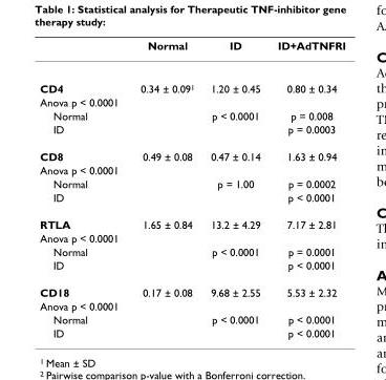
<table><thead><tr><td></td><td>Normal</td><td>ID</td><td>ID+AdTNFRI</td></tr></thead><tbody><tr><td>CD4</td><td>0.34 ± 0.09<sup>1</sup></td><td>1.20 ± 0.45</td><td>0.80 ± 0.34</td></tr><tr><td colspan="4">Anova p &lt; 0.0001</td></tr><tr><td>Normal</td><td></td><td>p &lt; 0.0001</td><td>p = 0.008</td></tr><tr><td>ID</td><td></td><td></td><td>p = 0.0003</td></tr><tr><td>CD8</td><td>0.49 ± 0.08</td><td>0.47 ± 0.14</td><td>1.63 ± 0.94</td></tr><tr><td colspan="4">Anova p &lt; 0.0001</td></tr><tr><td>Normal</td><td></td><td>p = 1.00</td><td>p = 0.0002</td></tr><tr><td>ID</td><td></td><td></td><td>p &lt; 0.0001</td></tr><tr><td>RTLA</td><td>1.65 ± 0.84</td><td>13.2 ± 4.29</td><td>7.17 ± 2.81</td></tr><tr><td colspan="4">Anova p &lt; 0.0001</td></tr><tr><td>Normal</td><td></td><td>p &lt; 0.0001</td><td>p = 0.0001</td></tr><tr><td>ID</td><td></td><td></td><td>p &lt; 0.0001</td></tr><tr><td>CD18</td><td>0.17 ± 0.08</td><td>9.68 ± 2.55</td><td>5.53 ± 2.32</td></tr><tr><td colspan="4">Anova p &lt; 0.0001</td></tr><tr><td>Normal</td><td></td><td>p &lt; 0.0001</td><td>p &lt; 0.0001</td></tr><tr><td>ID</td><td></td><td></td><td>p &lt; 0.0001</td></tr></tbody></table>